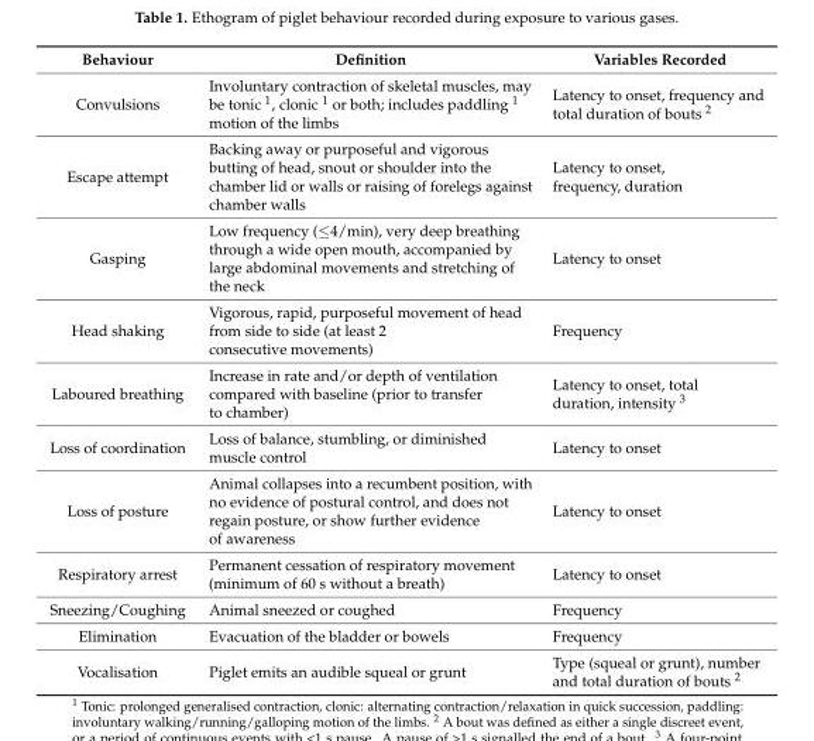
<table><thead><tr><td>Behaviour</td><td>Definition</td><td>Variables Recorded</td></tr></thead><tbody><tr><td>Convulsions</td><td>Involuntary contraction of skeletal muscles, may be tonic <sup>1</sup>, clonic <sup>1</sup> or both; includes paddling <sup>1</sup> motion of the limbs</td><td>Latency to onset, frequency and total duration of bouts <sup>2</sup></td></tr><tr><td>Escape attempt</td><td>Backing away or purposeful and vigorous butting of head, snout or shoulder into the chamber lid or walls or raising of forelegs against chamber walls</td><td>Latency to onset, frequency, duration</td></tr><tr><td>Gasping</td><td>Low frequency (≤4/min), very deep breathing through a wide open mouth, accompanied by large abdominal movements and stretching of the neck</td><td>Latency to onset</td></tr><tr><td>Head shaking</td><td>Vigorous, rapid, purposeful movement of head from side to side (at least 2 consecutive movements)</td><td>Frequency</td></tr><tr><td>Laboured breathing</td><td>Increase in rate and/or depth of ventilation compared with baseline (prior to transfer to chamber)</td><td>Latency to onset, total duration, intensity <sup>3</sup></td></tr><tr><td>Loss of coordination</td><td>Loss of balance, stumbling, or diminished muscle control</td><td>Latency to onset</td></tr><tr><td>Loss of posture</td><td>Animal collapses into a recumbent position, with no evidence of postural control, and does not regain posture, or show further evidence of awareness</td><td>Latency to onset</td></tr><tr><td>Respiratory arrest</td><td>Permanent cessation of respiratory movement (minimum of 60 s without a breath)</td><td>Latency to onset</td></tr><tr><td>Sneezing/Coughing</td><td>Animal sneezed or coughed</td><td>Frequency</td></tr><tr><td>Elimination</td><td>Evacuation of the bladder or bowels</td><td>Frequency</td></tr><tr><td>Vocalisation</td><td>Piglet emits an audible squeal or grunt</td><td>Type (squeal or grunt), number and total duration of bouts <sup>2</sup></td></tr></tbody></table>